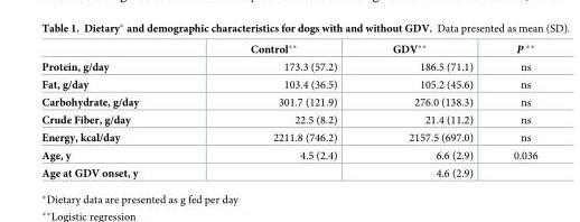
<table><thead><tr><td></td><td>Control**</td><td>GDV**</td><td>P **</td></tr></thead><tbody><tr><td>Protein, g/day</td><td>173.3 (57.2)</td><td>186.5 (71.1)</td><td>ns</td></tr><tr><td>Fat, g/day</td><td>103.4 (36.5)</td><td>105.2 (45.6)</td><td>ns</td></tr><tr><td>Carbohydrate, g/day</td><td>301.7 (121.9)</td><td>276.0 (138.3)</td><td>ns</td></tr><tr><td>Crude Fiber, g/day</td><td>22.5 (8.2)</td><td>21.4 (11.2)</td><td>ns</td></tr><tr><td>Energy, kcal/day</td><td>2211.8 (746.2)</td><td>2157.5 (697.0)</td><td>ns</td></tr><tr><td>Age, y</td><td>4.5 (2.4)</td><td>6.6 (2.9)</td><td>0.036</td></tr><tr><td>Age at GDV onset, y</td><td></td><td>4.6 (2.9)</td><td></td></tr></tbody></table>